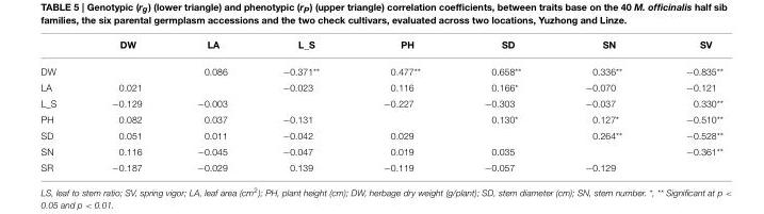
<table><thead><tr><td></td><td>DW</td><td>LA</td><td>L_S</td><td>PH</td><td>SD</td><td>SN</td><td>SV</td></tr></thead><tbody><tr><td>DW</td><td></td><td>0.086</td><td>−0.371**</td><td>0.477**</td><td>0.658**</td><td>0.336**</td><td>−0.835**</td></tr><tr><td>LA</td><td>0.021</td><td></td><td>−0.023</td><td>0.116</td><td>0.166*</td><td>−0.070</td><td>−0.121</td></tr><tr><td>L_S</td><td>−0.129</td><td>−0.003</td><td></td><td>−0.227</td><td>−0.303</td><td>−0.037</td><td>0.330**</td></tr><tr><td>PH</td><td>0.082</td><td>0.037</td><td>−0.131</td><td></td><td>0.130*</td><td>0.127*</td><td>−0.510**</td></tr><tr><td>SD</td><td>0.051</td><td>0.011</td><td>−0.042</td><td>0.029</td><td></td><td>0.264**</td><td>−0.528**</td></tr><tr><td>SN</td><td>0.116</td><td>−0.045</td><td>−0.047</td><td>0.019</td><td>0.035</td><td></td><td>−0.361**</td></tr><tr><td>SR</td><td>−0.187</td><td>−0.029</td><td>0.139</td><td>−0.119</td><td>−0.057</td><td>−0.129</td><td></td></tr></tbody></table>